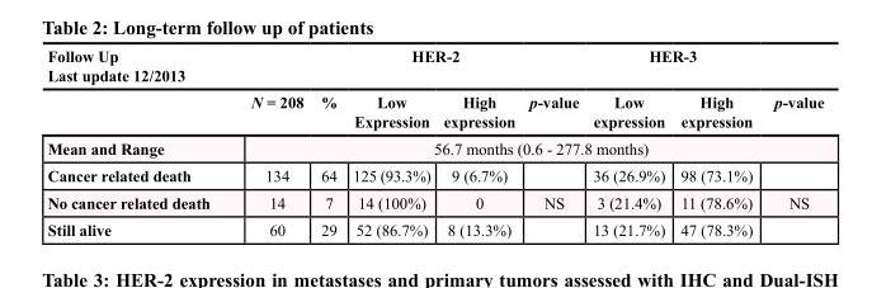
<table><thead><tr><td rowspan="2">Follow Up Last update 12/2013</td><td colspan="5">HER-2</td><td colspan="3">HER-3</td></tr><tr><td>N = 208</td><td>%</td><td>Low Expression</td><td>High expression</td><td>p-value</td><td>Low expression</td><td>High expression</td><td>p-value</td></tr></thead><tbody><tr><td>Mean and Range</td><td colspan="8">56.7 months (0.6 277.8 months)</td></tr><tr><td>Cancer related death</td><td>134</td><td>64</td><td>125 (93.3%)</td><td>9 (6.7%)</td><td></td><td>36 (26.9%)</td><td>98 (73.1%)</td><td></td></tr><tr><td>No cancer related death</td><td>14</td><td>7</td><td>14 (100%)</td><td>0</td><td>NS</td><td>3 (21.4%)</td><td>11 (78.6%)</td><td>NS</td></tr><tr><td>Still alive</td><td>60</td><td>29</td><td>52 (86.7%)</td><td>8 (13.3%)</td><td></td><td>13 (21.7%)</td><td>47 (78.3%)</td><td></td></tr></tbody></table>